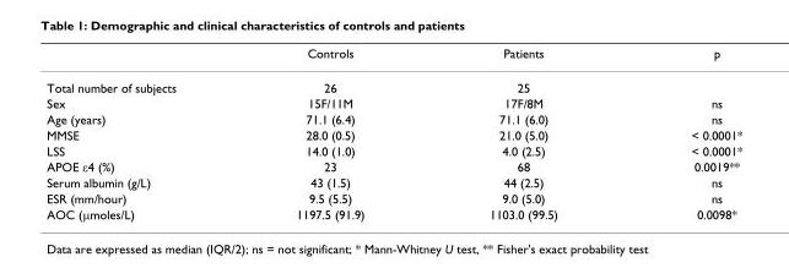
<table><thead><tr><td></td><td>Controls</td><td>Patients</td><td>p</td></tr></thead><tbody><tr><td>Total number of subjects</td><td>26</td><td>25</td><td></td></tr><tr><td>Sex</td><td>15F/11M</td><td>17F/8M</td><td>ns</td></tr><tr><td>Age (years)</td><td>71.1 (6.4)</td><td>71.1 (6.0)</td><td>ns</td></tr><tr><td>MMSE</td><td>28.0 (0.5)</td><td>21.0 (5.0)</td><td>&lt; 0.0001*</td></tr><tr><td>LSS</td><td>14.0 (1.0)</td><td>4.0 (2.5)</td><td>&lt; 0.0001*</td></tr><tr><td>APOE ε4 (%)</td><td>23</td><td>68</td><td>0.0019**</td></tr><tr><td>Serum albumin (g/L)</td><td>43 (1.5)</td><td>44 (2.5)</td><td>ns</td></tr><tr><td>ESR (mm/hour)</td><td>9.5 (5.5)</td><td>9.0 (5.0)</td><td>ns</td></tr><tr><td>AOC (µmoles/L)</td><td>1197.5 (91.9)</td><td>1103.0 (99.5)</td><td>0.0098*</td></tr></tbody></table>